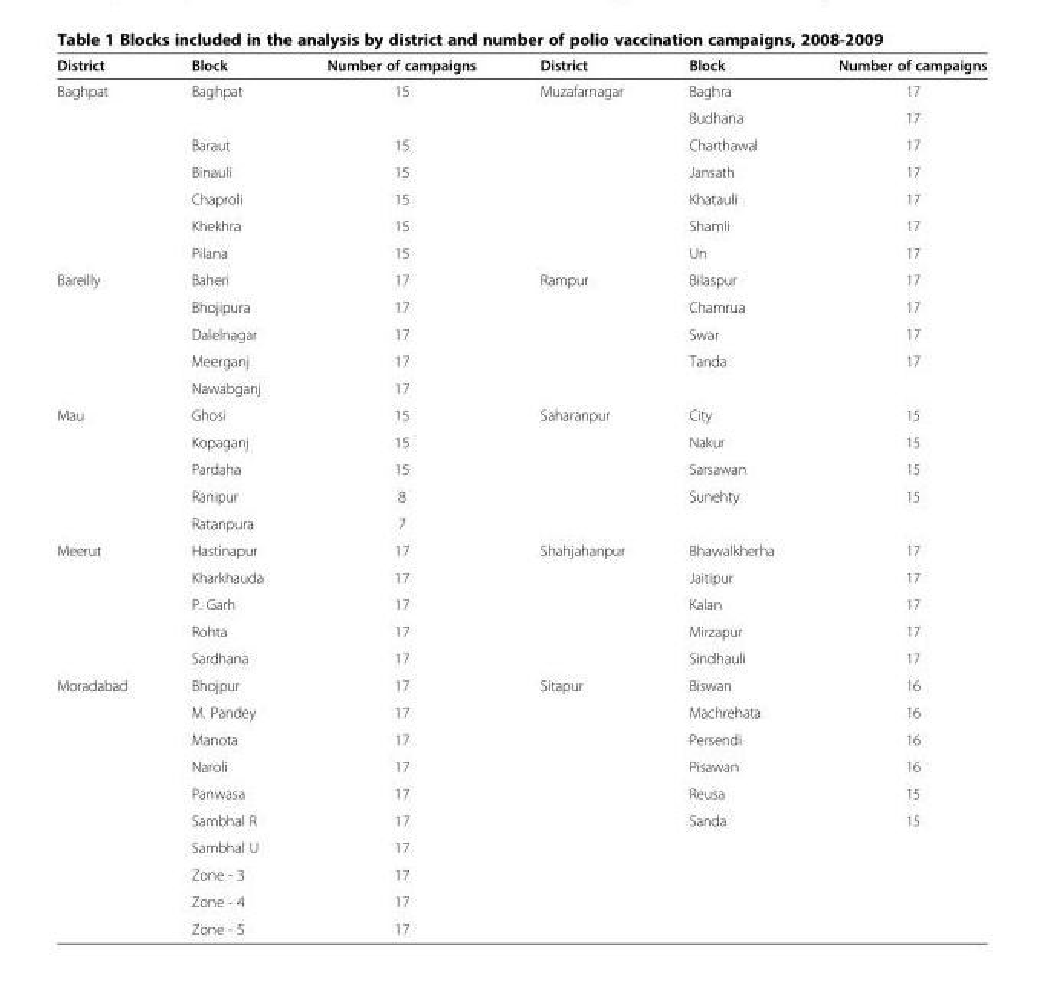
<table><thead><tr><td>District</td><td>Block</td><td>Number of campaigns</td><td>District</td><td>Block</td><td>Number of campaigns</td></tr></thead><tbody><tr><td rowspan="7">Baghpat</td><td rowspan="2">Baghpat</td><td rowspan="2">15</td><td rowspan="7">Muzafarnagar</td><td>Baghra</td><td>17</td></tr><tr><td>Budhana</td><td>17</td></tr><tr><td>Baraut</td><td>15</td><td>Charthawal</td><td>17</td></tr><tr><td>Binauli</td><td>15</td><td>Jansath</td><td>17</td></tr><tr><td>Chaproli</td><td>15</td><td>Khatauli</td><td>17</td></tr><tr><td>Khekhra</td><td>15</td><td>Shamli</td><td>17</td></tr><tr><td>Pilana</td><td>15</td><td>Un</td><td>17</td></tr><tr><td rowspan="5">Bareilly</td><td>Baheri</td><td>17</td><td rowspan="5">Rampur</td><td>Bilaspur</td><td>17</td></tr><tr><td>Bhojipura</td><td>17</td><td>Chamrua</td><td>17</td></tr><tr><td>Dalelnagar</td><td>17</td><td>Swar</td><td>17</td></tr><tr><td>Meerganj</td><td>17</td><td>Tanda</td><td>17</td></tr><tr><td>Nawabganj</td><td>17</td><td></td><td></td></tr><tr><td rowspan="5">Mau</td><td>Ghosi</td><td>15</td><td rowspan="5">Saharanpur</td><td>City</td><td>15</td></tr><tr><td>Kopaganj</td><td>15</td><td>Nakur</td><td>15</td></tr><tr><td>Pardaha</td><td>15</td><td>Sarsawan</td><td>15</td></tr><tr><td>Ranipur</td><td>8</td><td>Sunehty</td><td>15</td></tr><tr><td>Ratanpura</td><td>7</td><td></td><td></td></tr><tr><td rowspan="5">Meerut</td><td>Hastinapur</td><td>17</td><td rowspan="5">Shahjahanpur</td><td>Bhawalkherha</td><td>17</td></tr><tr><td>Kharkhauda</td><td>17</td><td>Jaitipur</td><td>17</td></tr><tr><td>P. Garh</td><td>17</td><td>Kalan</td><td>17</td></tr><tr><td>Rohta</td><td>17</td><td>Mirzapur</td><td>17</td></tr><tr><td>Sardhana</td><td>17</td><td>Sindhauli</td><td>17</td></tr><tr><td rowspan="10">Moradabad</td><td>Bhojpur</td><td>17</td><td rowspan="6">Sitapur</td><td>Biswan</td><td>16</td></tr><tr><td>M. Pandey</td><td>17</td><td>Machrehata</td><td>16</td></tr><tr><td>Manota</td><td>17</td><td>Persendi</td><td>16</td></tr><tr><td>Naroli</td><td>17</td><td>Pisawan</td><td>16</td></tr><tr><td>Panwasa</td><td>17</td><td>Reusa</td><td>15</td></tr><tr><td>Sambhal R</td><td>17</td><td>Sanda</td><td>15</td></tr><tr><td>Sambhal U</td><td>17</td><td></td><td></td><td></td></tr><tr><td>Zone - 3</td><td>17</td><td></td><td></td><td></td></tr><tr><td>Zone - 4</td><td>17</td><td></td><td></td><td></td></tr><tr><td>Zone - 5</td><td>17</td><td></td><td></td><td></td></tr></tbody></table>